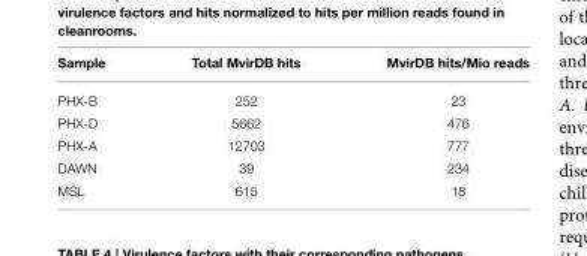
<table><thead><tr><td>Sample</td><td>Total MvirDB hits</td><td>MvirDB hits/Mio reads</td></tr></thead><tbody><tr><td>PHX-B</td><td>252</td><td>23</td></tr><tr><td>PHX-D</td><td>5662</td><td>476</td></tr><tr><td>PHX-A</td><td>12703</td><td>777</td></tr><tr><td>DAWN</td><td>39</td><td>234</td></tr><tr><td>MSL</td><td>615</td><td>18</td></tr></tbody></table>